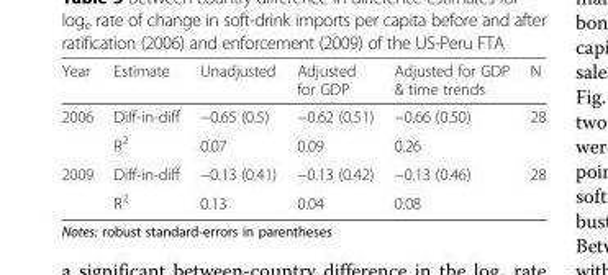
<table><thead><tr><td>Year</td><td>Estimate</td><td>Unadjusted</td><td>Adjusted for GDP</td><td>Adjusted for GDP &amp; time trends</td><td>N</td></tr></thead><tbody><tr><td rowspan="2">2006</td><td>Diff-in-diff</td><td>−0.65 (0.5)</td><td>−0.62 (0.51)</td><td>−0.66 (0.50)</td><td rowspan="2">28</td></tr><tr><td>R<sup>2</sup></td><td>0.07</td><td>0.09</td><td>0.26</td></tr><tr><td rowspan="2">2009</td><td>Diff-in-diff</td><td>−0.13 (0.41)</td><td>−0.13 (0.42)</td><td>−0.13 (0.46)</td><td rowspan="2">28</td></tr><tr><td>R<sup>2</sup></td><td>0.13</td><td>0.04</td><td>0.08</td></tr></tbody></table>